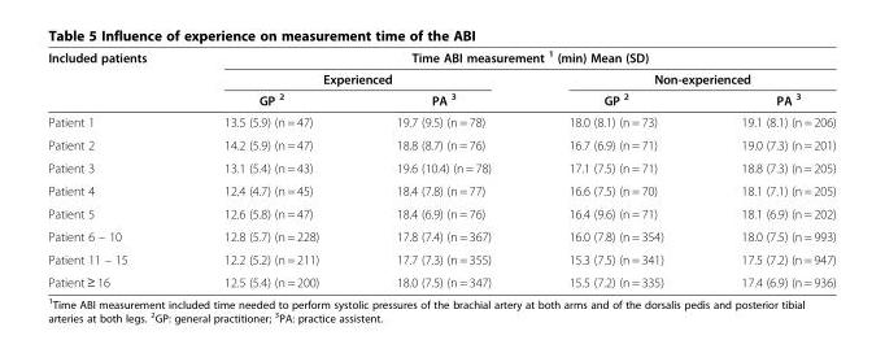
<table><thead><tr><td rowspan="3">Included patients</td><td colspan="4">Time ABI measurement <sup>1</sup> (min) Mean (SD)</td></tr><tr><td colspan="2">Experienced</td><td colspan="2">Non-experienced</td></tr><tr><td>GP <sup>2</sup></td><td>PA <sup>3</sup></td><td>GP <sup>2</sup></td><td>PA <sup>3</sup></td></tr></thead><tbody><tr><td>Patient 1</td><td>13.5 (5.9) (n = 47)</td><td>19.7 (9.5) (n = 78)</td><td>18.0 (8.1) (n = 73)</td><td>19.1 (8.1) (n = 206)</td></tr><tr><td>Patient 2</td><td>14.2 (5.9) (n = 47)</td><td>18.8 (8.7) (n = 76)</td><td>16.7 (6.9) (n = 71)</td><td>19.0 (7.3) (n = 201)</td></tr><tr><td>Patient 3</td><td>13.1 (5.4) (n = 43)</td><td>19.6 (10.4) (n = 78)</td><td>17.1 (7.5) (n = 71)</td><td>18.8 (7.3) (n = 205)</td></tr><tr><td>Patient 4</td><td>12.4 (4.7) (n = 45)</td><td>18.4 (7.8) (n = 77)</td><td>16.6 (7.5) (n = 70)</td><td>18.1 (7.1) (n = 205)</td></tr><tr><td>Patient 5</td><td>12.6 (5.8) (n = 47)</td><td>18.4 (6.9) (n = 76)</td><td>16.4 (9.6) (n = 71)</td><td>18.1 (6.9) (n = 202)</td></tr><tr><td>Patient 6 – 10</td><td>12.8 (5.7) (n = 228)</td><td>17.8 (7.4) (n = 367)</td><td>16.0 (7.8) (n = 354)</td><td>18.0 (7.5) (n = 993)</td></tr><tr><td>Patient 11 – 15</td><td>12.2 (5.2) (n = 211)</td><td>17.7 (7.3) (n = 355)</td><td>15.3 (7.5) (n = 341)</td><td>17.5 (7.2) (n = 947)</td></tr><tr><td>Patient ≥ 16</td><td>12.5 (5.4) (n = 200)</td><td>18.0 (7.5) (n = 347)</td><td>15.5 (7.2) (n = 335)</td><td>17.4 (6.9) (n = 936)</td></tr></tbody></table>